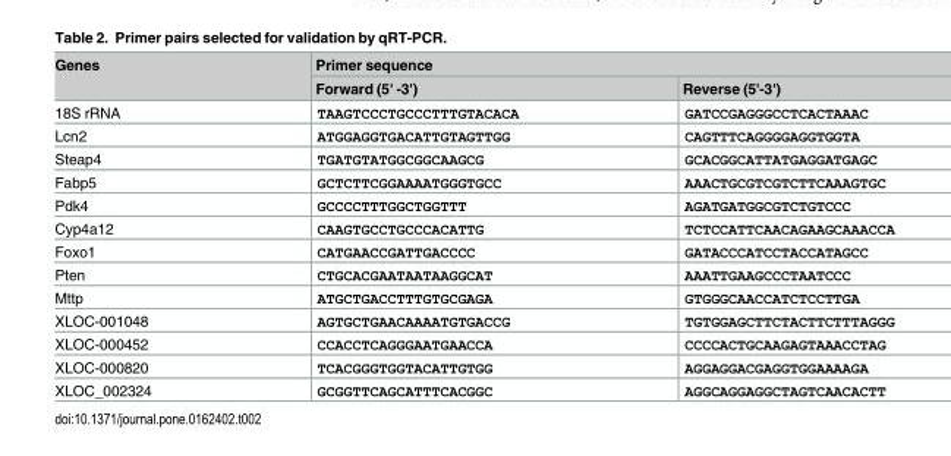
<table><thead><tr><td rowspan="2">Genes</td><td colspan="2">Primer sequence</td></tr><tr><td>Forward (5&#x27; -3&#x27;)</td><td>Reverse (5&#x27;-3&#x27;)</td></tr></thead><tbody><tr><td>18S rRNA</td><td>TAAGTCCCTGCCCTTTGTACACA</td><td>GATCCGAGGGCCTCACTAAAC</td></tr><tr><td>Lcn2</td><td>ATGGAGGTGACATTGTAGTTGG</td><td>CAGTTTCAGGGGAGGTGGTA</td></tr><tr><td>Steap4</td><td>TGATGTATGGCGGCAAGCG</td><td>GCACGGCATTATGAGGATGAGC</td></tr><tr><td>Fabp5</td><td>GCTCTTCGGAAAATGGGTGCC</td><td>AAACTGCGTCGTCTTCAAAGTGC</td></tr><tr><td>Pdk4</td><td>GCCCCTTTGGCTGGTTT</td><td>AGATGATGGCGTCTGTCCC</td></tr><tr><td>Cyp4a12</td><td>CAAGTGCCTGCCCACATTG</td><td>TCTCCATTCAACAGAAGCAAACCA</td></tr><tr><td>Foxo1</td><td>CATGAACCGATTGACCCC</td><td>GATACCCATCCTACCATAGCC</td></tr><tr><td>Pten</td><td>CTGCACGAATAATAAGGCAT</td><td>AAATTGAAGCCCTAATCCC</td></tr><tr><td>Mttp</td><td>ATGCTGACCTTTGTGCGAGA</td><td>GTGGGCAACCATCTCCTTGA</td></tr><tr><td>XLOC-001048</td><td>AGTGCTGAACAAAATGTGACCG</td><td>TGTGGAGCTTCTACTTCTTTAGGG</td></tr><tr><td>XLOC-000452</td><td>CCACCTCAGGGAATGAACCA</td><td>CCCCACTGCAAGAGTAAACCTAG</td></tr><tr><td>XLOC-000820</td><td>TCACGGGTGGTACATTGTGG</td><td>AGGAGGACGAGGTGGAAAAGA</td></tr><tr><td>XLOC_002324</td><td>GCGGTTCAGCATTTCACGGC</td><td>AGGCAGGAGGCTAGTCAACACTT</td></tr></tbody></table>